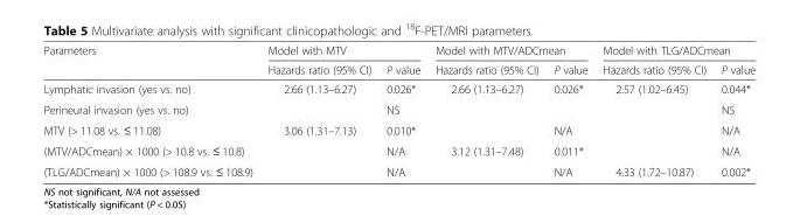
<table><thead><tr><td rowspan="2">Parameters</td><td colspan="2">Model with MTV</td><td colspan="2">Model with MTV/ADCmean</td><td colspan="2">Model with TLG/ADCmean</td></tr><tr><td>Hazards ratio (95% CI)</td><td>P value</td><td>Hazards ratio (95% CI)</td><td>P value</td><td>Hazards ratio (95% CI)</td><td>P value</td></tr></thead><tbody><tr><td>Lymphatic invasion (yes vs. no)</td><td>2.66 (1.13–6.27)</td><td>0.026*</td><td>2.66 (1.13–6.27)</td><td>0.026*</td><td>2.57 (1.02–6.45)</td><td>0.044*</td></tr><tr><td>Perineural invasion (yes vs. no)</td><td></td><td>NS</td><td></td><td></td><td></td><td>NS</td></tr><tr><td>MTV (&gt; 11.08 vs. ≤ 11.08)</td><td>3.06 (1.31–7.13)</td><td>0.010*</td><td></td><td>N/A</td><td></td><td>N/A</td></tr><tr><td>(MTV/ADCmean) × 1000 (&gt; 10.8 vs. ≤ 10.8)</td><td></td><td>N/A</td><td>3.12 (1.31–7.48)</td><td>0.011*</td><td></td><td>N/A</td></tr><tr><td>(TLG/ADCmean) × 1000 (&gt; 108.9 vs. ≤ 108.9)</td><td></td><td>N/A</td><td></td><td>N/A</td><td>4.33 (1.72–10.87)</td><td>0.002*</td></tr></tbody></table>